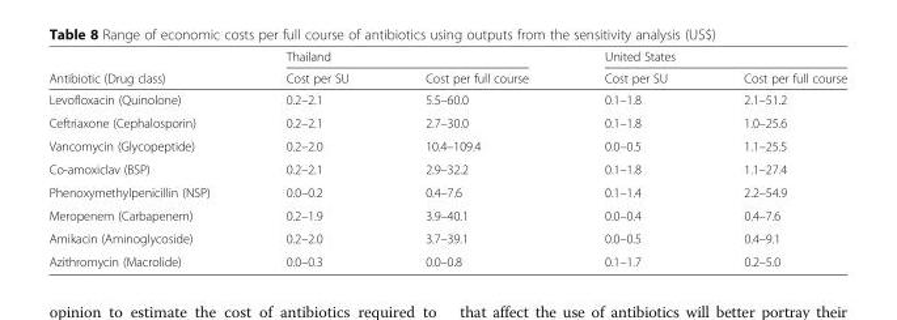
<table><thead><tr><td rowspan="2">Antibiotic (Drug class)</td><td colspan="2">Thailand</td><td colspan="2">United States</td></tr><tr><td>Cost per SU</td><td>Cost per full course</td><td>Cost per SU</td><td>Cost per full course</td></tr></thead><tbody><tr><td>Levofloxacin (Quinolone)</td><td>0.2–2.1</td><td>5.5–60.0</td><td>0.1–1.8</td><td>2.1–51.2</td></tr><tr><td>Ceftriaxone (Cephalosporin)</td><td>0.2–2.1</td><td>2.7–30.0</td><td>0.1–1.8</td><td>1.0–25.6</td></tr><tr><td>Vancomycin (Glycopeptide)</td><td>0.2–2.0</td><td>10.4–109.4</td><td>0.0–0.5</td><td>1.1–25.5</td></tr><tr><td>Co-amoxiclav (BSP)</td><td>0.2–2.1</td><td>2.9–32.2</td><td>0.1–1.8</td><td>1.1–27.4</td></tr><tr><td>Phenoxymethylpenicillin (NSP)</td><td>0.0–0.2</td><td>0.4–7.6</td><td>0.1–1.4</td><td>2.2–54.9</td></tr><tr><td>Meropenem (Carbapenem)</td><td>0.2–1.9</td><td>3.9–40.1</td><td>0.0–0.4</td><td>0.4–7.6</td></tr><tr><td>Amikacin (Aminoglycoside)</td><td>0.2–2.0</td><td>3.7–39.1</td><td>0.0–0.5</td><td>0.4–9.1</td></tr><tr><td>Azithromycin (Macrolide)</td><td>0.0–0.3</td><td>0.0–0.8</td><td>0.1–1.7</td><td>0.2–5.0</td></tr></tbody></table>